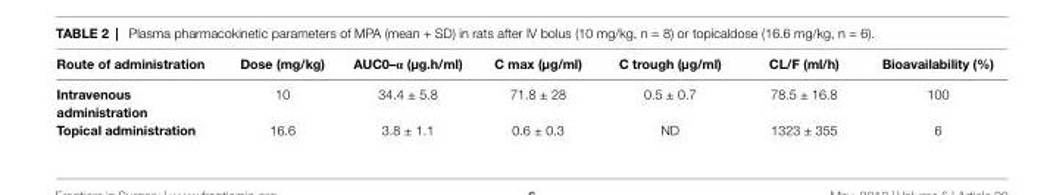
<table><thead><tr><td>Route of administration</td><td>Dose (mg/kg)</td><td>AUC<sub>0–α</sub> (µg.h/ml)</td><td>C <sub>max</sub> (µg/ml)</td><td>C <sub>trough</sub> (µg/ml)</td><td>CL/F (ml/h)</td><td>Bioavailability (%)</td></tr></thead><tbody><tr><td>Intravenous administration</td><td>10</td><td>34.4 ± 5.8</td><td>71.8 ± 28</td><td>0.5 ± 0.7</td><td>78.5 ± 16.8</td><td>100</td></tr><tr><td>Topical administration</td><td>16.6</td><td>3.8 ± 1.1</td><td>0.6 ± 0.3</td><td>ND</td><td>1323 ± 355</td><td>6</td></tr></tbody></table>